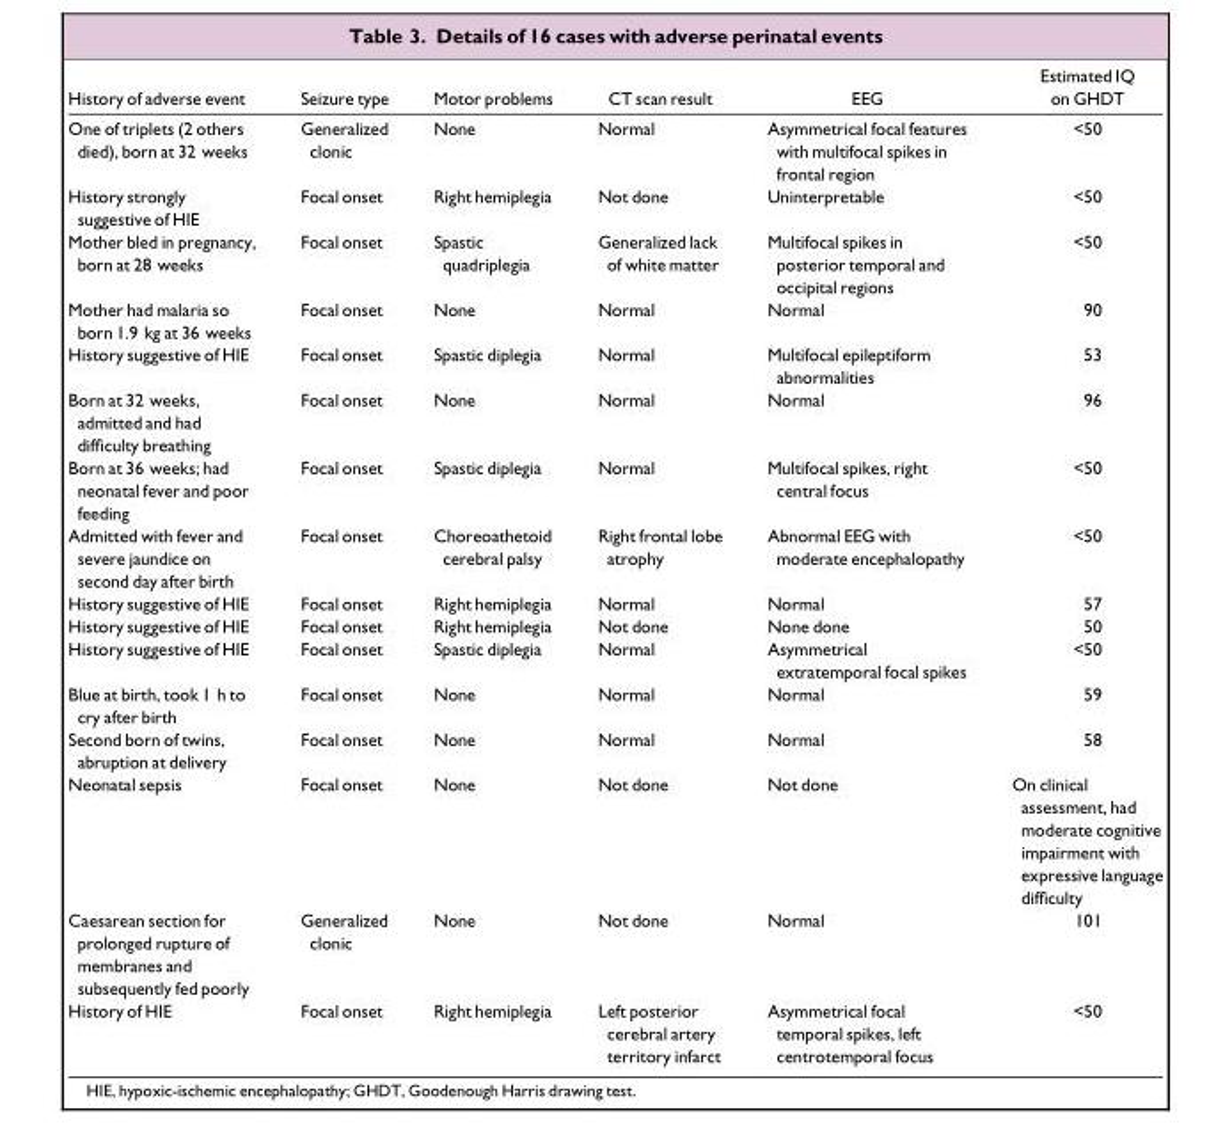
<table><thead><tr><td>History of adverse event</td><td>Seizure type</td><td>Motor problems</td><td>CT scan result</td><td>EEG</td><td>Estimated IQ on GHDT</td></tr></thead><tbody><tr><td>One of triplets (2 others died), born at 32 weeks</td><td>Generalized clonic</td><td>None</td><td>Normal</td><td>Asymmetrical focal features with multifocal spikes in frontal region</td><td>&lt;50</td></tr><tr><td>History strongly suggestive of HIE</td><td>Focal onset</td><td>Right hemiplegia</td><td>Not done</td><td>Uninterpretable</td><td>&lt;50</td></tr><tr><td>Mother bled in pregnancy, born at 28 weeks</td><td>Focal onset</td><td>Spastic quadriplegia</td><td>Generalized lack of white matter</td><td>Multifocal spikes in posterior temporal and occipital regions</td><td>&lt;50</td></tr><tr><td>Mother had malaria so born 1.9 kg at 36 weeks</td><td>Focal onset</td><td>None</td><td>Normal</td><td>Normal</td><td>90</td></tr><tr><td>History suggestive of HIE</td><td>Focal onset</td><td>Spastic diplegia</td><td>Normal</td><td>Multifocal epileptiform abnormalities</td><td>53</td></tr><tr><td>Born at 32 weeks, admitted and had difficulty breathing</td><td>Focal onset</td><td>None</td><td>Normal</td><td>Normal</td><td>96</td></tr><tr><td>Born at 36 weeks; had neonatal fever and poor feeding</td><td>Focal onset</td><td>Spastic diplegia</td><td>Normal</td><td>Multifocal spikes, right central focus</td><td>&lt;50</td></tr><tr><td>Admitted with fever and severe jaundice on second day after birth</td><td>Focal onset</td><td>Choreoathetoid cerebral palsy</td><td>Right frontal lobe atrophy</td><td>Abnormal EEG with moderate encephalopathy</td><td>&lt;50</td></tr><tr><td>History suggestive of HIE</td><td>Focal onset</td><td>Right hemiplegia</td><td>Normal</td><td>Normal</td><td>57</td></tr><tr><td>History suggestive of HIE</td><td>Focal onset</td><td>Right hemiplegia</td><td>Not done</td><td>None done</td><td>50</td></tr><tr><td>History suggestive of HIE</td><td>Focal onset</td><td>Spastic diplegia</td><td>Normal</td><td>Asymmetrical extratemporal focal spikes</td><td>&lt;50</td></tr><tr><td>Blue at birth, took 1 h to cry after birth</td><td>Focal onset</td><td>None</td><td>Normal</td><td>Normal</td><td>59</td></tr><tr><td>Second born of twins, abruption at delivery</td><td>Focal onset</td><td>None</td><td>Normal</td><td>Normal</td><td>58</td></tr><tr><td>Neonatal sepsis</td><td>Focal onset</td><td>None</td><td>Not done</td><td>Not done</td><td>On clinical assessment, had moderate cognitive impairment with expressive language difficulty</td></tr><tr><td>Caesarean section for prolonged rupture of membranes and subsequently fed poorly</td><td>Generalized clonic</td><td>None</td><td>Not done</td><td>Normal</td><td>101</td></tr><tr><td>History of HIE</td><td>Focal onset</td><td>Right hemiplegia</td><td>Left posterior cerebral artery territory infarct</td><td>Asymmetrical focal temporal spikes, left centrotemporal focus</td><td>&lt;50</td></tr></tbody></table>